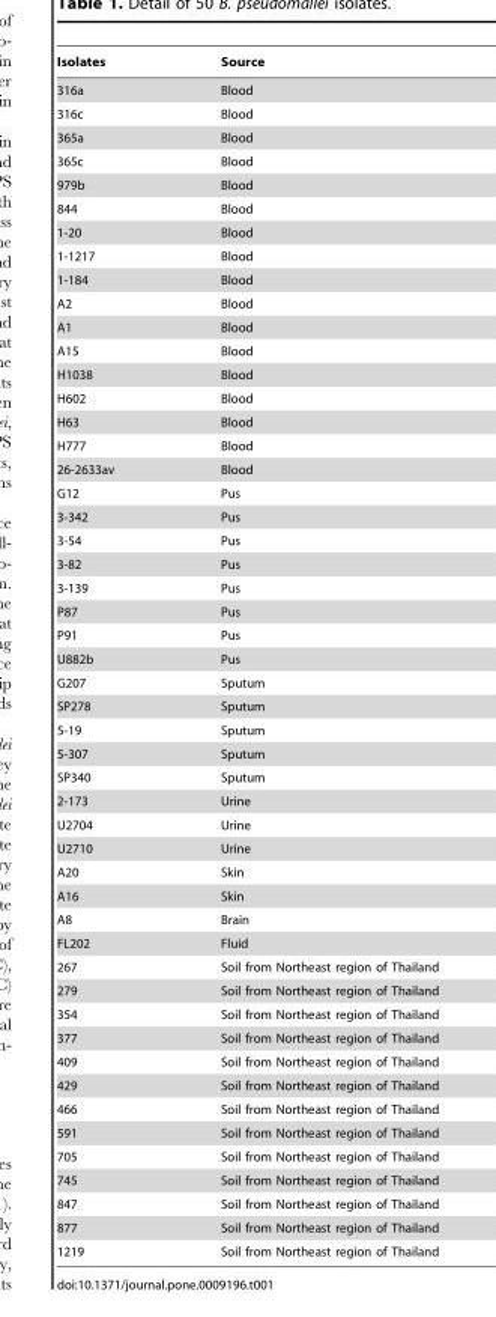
<table><thead><tr><td>Isolates</td><td>Source</td></tr></thead><tbody><tr><td>316a</td><td>Blood</td></tr><tr><td>316c</td><td>Blood</td></tr><tr><td>365a</td><td>Blood</td></tr><tr><td>365c</td><td>Blood</td></tr><tr><td>979b</td><td>Blood</td></tr><tr><td>844</td><td>Blood</td></tr><tr><td>1-20</td><td>Blood</td></tr><tr><td>1-1217</td><td>Blood</td></tr><tr><td>1-184</td><td>Blood</td></tr><tr><td>A2</td><td>Blood</td></tr><tr><td>A1</td><td>Blood</td></tr><tr><td>A15</td><td>Blood</td></tr><tr><td>H1038</td><td>Blood</td></tr><tr><td>H602</td><td>Blood</td></tr><tr><td>H63</td><td>Blood</td></tr><tr><td>H777</td><td>Blood</td></tr><tr><td>26-2633av</td><td>Blood</td></tr><tr><td>G12</td><td>Pus</td></tr><tr><td>3-342</td><td>Pus</td></tr><tr><td>3-54</td><td>Pus</td></tr><tr><td>3-82</td><td>Pus</td></tr><tr><td>3-139</td><td>Pus</td></tr><tr><td>P87</td><td>Pus</td></tr><tr><td>P91</td><td>Pus</td></tr><tr><td>U882b</td><td>Pus</td></tr><tr><td>G207</td><td>Sputum</td></tr><tr><td>SP278</td><td>Sputum</td></tr><tr><td>5-19</td><td>Sputum</td></tr><tr><td>5-307</td><td>Sputum</td></tr><tr><td>SP340</td><td>Sputum</td></tr><tr><td>2-173</td><td>Urine</td></tr><tr><td>U2704</td><td>Urine</td></tr><tr><td>U2710</td><td>Urine</td></tr><tr><td>A20</td><td>Skin</td></tr><tr><td>A16</td><td>Skin</td></tr><tr><td>A8</td><td>Brain</td></tr><tr><td>FL202</td><td>Fluid</td></tr><tr><td>267</td><td>Soil from Northeast region of Thailand</td></tr><tr><td>279</td><td>Soil from Northeast region of Thailand</td></tr><tr><td>354</td><td>Soil from Northeast region of Thailand</td></tr><tr><td>377</td><td>Soil from Northeast region of Thailand</td></tr><tr><td>409</td><td>Soil from Northeast region of Thailand</td></tr><tr><td>429</td><td>Soil from Northeast region of Thailand</td></tr><tr><td>466</td><td>Soil from Northeast region of Thailand</td></tr><tr><td>591</td><td>Soil from Northeast region of Thailand</td></tr><tr><td>705</td><td>Soil from Northeast region of Thailand</td></tr><tr><td>745</td><td>Soil from Northeast region of Thailand</td></tr><tr><td>847</td><td>Soil from Northeast region of Thailand</td></tr><tr><td>877</td><td>Soil from Northeast region of Thailand</td></tr><tr><td>1219</td><td>Soil from Northeast region of Thailand</td></tr></tbody></table>